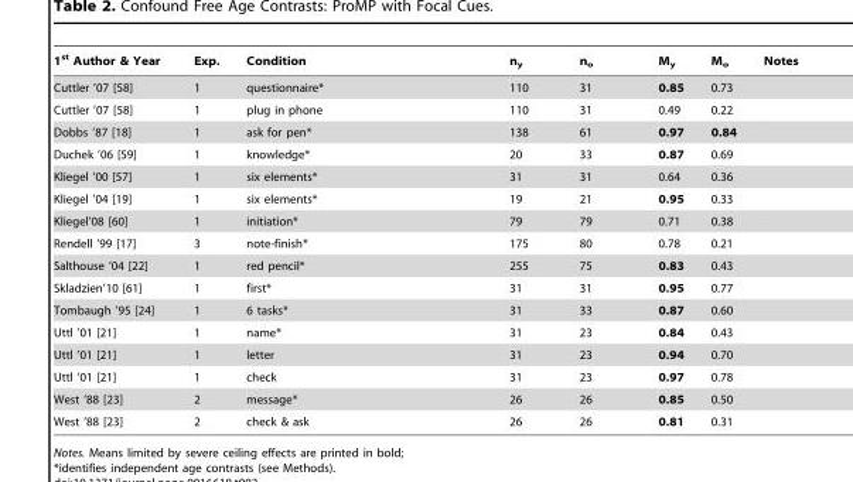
<table><thead><tr><td>1<sup>st</sup> Author &amp; Year</td><td>Exp.</td><td>Condition</td><td>n<sub>y</sub></td><td>n<sub>o</sub></td><td>M<sub>y</sub></td><td>M<sub>o</sub></td><td>Notes</td></tr></thead><tbody><tr><td>Cuttler ’07 [58]</td><td>1</td><td>questionnaire*</td><td>110</td><td>31</td><td>0.85</td><td>0.73</td><td></td></tr><tr><td>Cuttler ’07 [58]</td><td>1</td><td>plug in phone</td><td>110</td><td>31</td><td>0.49</td><td>0.22</td><td></td></tr><tr><td>Dobbs ’87 [18]</td><td>1</td><td>ask for pen*</td><td>138</td><td>61</td><td>0.97</td><td>0.84</td><td></td></tr><tr><td>Duchek ’06 [59]</td><td>1</td><td>knowledge*</td><td>20</td><td>33</td><td>0.87</td><td>0.69</td><td></td></tr><tr><td>Kliegel ’00 [57]</td><td>1</td><td>six elements*</td><td>31</td><td>31</td><td>0.64</td><td>0.36</td><td></td></tr><tr><td>Kliegel ’04 [19]</td><td>1</td><td>six elements*</td><td>19</td><td>21</td><td>0.95</td><td>0.33</td><td></td></tr><tr><td>Kliegel’08 [60]</td><td>1</td><td>initiation*</td><td>79</td><td>79</td><td>0.71</td><td>0.38</td><td></td></tr><tr><td>Rendell ’99 [17]</td><td>3</td><td>note-finish*</td><td>175</td><td>80</td><td>0.78</td><td>0.21</td><td></td></tr><tr><td>Salthouse ’04 [22]</td><td>1</td><td>red pencil*</td><td>255</td><td>75</td><td>0.83</td><td>0.43</td><td></td></tr><tr><td>Skladzien’10 [61]</td><td>1</td><td>first*</td><td>31</td><td>31</td><td>0.95</td><td>0.77</td><td></td></tr><tr><td>Tombaugh ’95 [24]</td><td>1</td><td>6 tasks*</td><td>31</td><td>33</td><td>0.87</td><td>0.60</td><td></td></tr><tr><td>Uttl ’01 [21]</td><td>1</td><td>name*</td><td>31</td><td>23</td><td>0.84</td><td>0.43</td><td></td></tr><tr><td>Uttl ’01 [21]</td><td>1</td><td>letter</td><td>31</td><td>23</td><td>0.94</td><td>0.70</td><td></td></tr><tr><td>Uttl ’01 [21]</td><td>1</td><td>check</td><td>31</td><td>23</td><td>0.97</td><td>0.78</td><td></td></tr><tr><td>West ’88 [23]</td><td>2</td><td>message*</td><td>26</td><td>26</td><td>0.85</td><td>0.50</td><td></td></tr><tr><td>West ’88 [23]</td><td>2</td><td>check &amp; ask</td><td>26</td><td>26</td><td>0.81</td><td>0.31</td><td></td></tr></tbody></table>